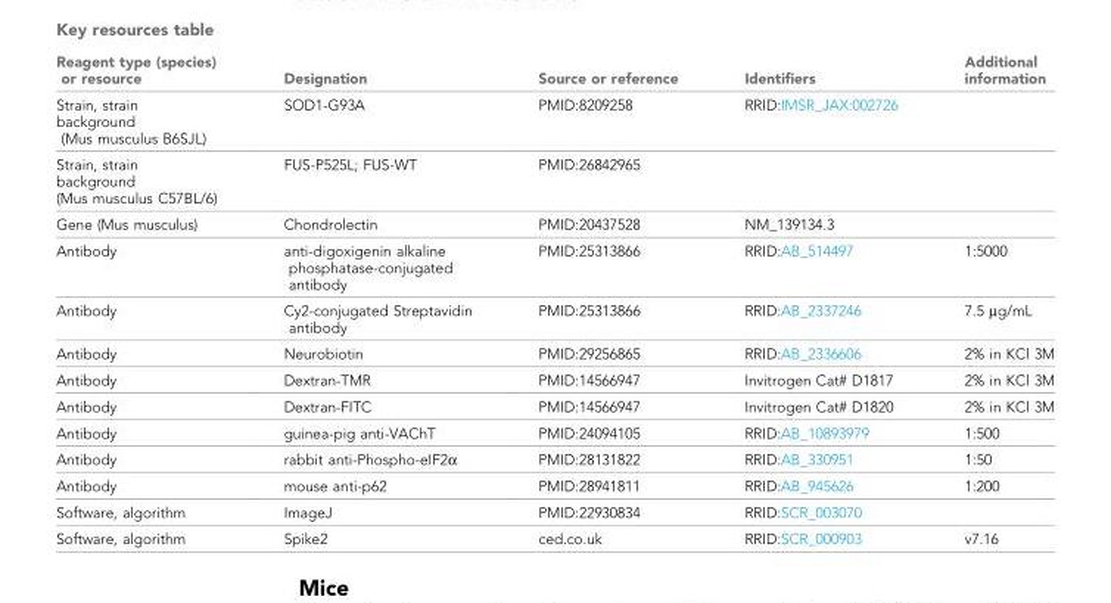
<table><thead><tr><td>Reagent type (species) or resource</td><td>Designation</td><td>Source or reference</td><td>Identifiers</td><td>Additional information</td></tr></thead><tbody><tr><td>Strain, strain background (Mus musculus B6SJL)</td><td>SOD1-G93A</td><td>PMID:8209258</td><td>RRID:IMSR_JAX:002726</td><td></td></tr><tr><td>Strain, strain background (Mus musculus C57BL/6)</td><td>FUS-P525L; FUS-WT</td><td>PMID:26842965</td><td></td><td></td></tr><tr><td>Gene (Mus musculus)</td><td>Chondrolectin</td><td>PMID:20437528</td><td>NM_139134.3</td><td></td></tr><tr><td>Antibody</td><td>anti-digoxigenin alkaline phosphatase-conjugated antibody</td><td>PMID:25313866</td><td>RRID:AB_514497</td><td>1:5000</td></tr><tr><td>Antibody</td><td>Cy2-conjugated Streptavidin antibody</td><td>PMID:25313866</td><td>RRID:AB_2337246</td><td>7.5 µg/mL</td></tr><tr><td>Antibody</td><td>Neurobiotin</td><td>PMID:29256865</td><td>RRID:AB_2336606</td><td>2% in KCl 3M</td></tr><tr><td>Antibody</td><td>Dextran-TMR</td><td>PMID:14566947</td><td>Invitrogen Cat# D1817</td><td>2% in KCl 3M</td></tr><tr><td>Antibody</td><td>Dextran-FITC</td><td>PMID:14566947</td><td>Invitrogen Cat# D1820</td><td>2% in KCl 3M</td></tr><tr><td>Antibody</td><td>guinea-pig anti-VAChT</td><td>PMID:24094105</td><td>RRID:AB_10893979</td><td>1:500</td></tr><tr><td>Antibody</td><td>rabbit anti-Phospho-eIF2α</td><td>PMID:28131822</td><td>RRID:AB_330951</td><td>1:50</td></tr><tr><td>Antibody</td><td>mouse anti-p62</td><td>PMID:28941811</td><td>RRID:AB_945626</td><td>1:200</td></tr><tr><td>Software, algorithm</td><td>ImageJ</td><td>PMID:22930834</td><td>RRID:SCR_003070</td><td></td></tr><tr><td>Software, algorithm</td><td>Spike2</td><td>ced.co.uk</td><td>RRID:SCR_000903</td><td>v7.16</td></tr></tbody></table>